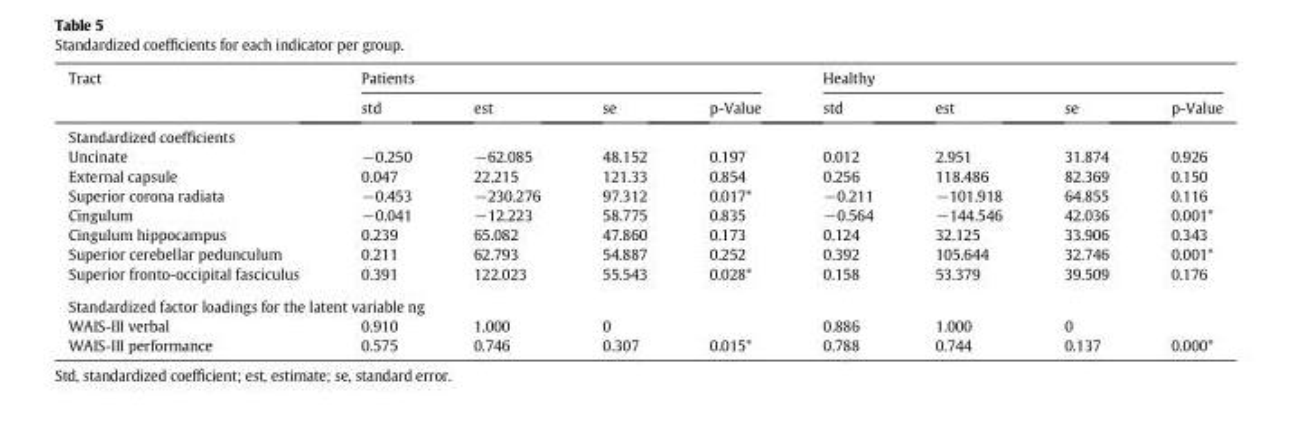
<table><thead><tr><td rowspan="2">Tract</td><td colspan="4">Patients</td><td colspan="4">Healthy</td></tr><tr><td>std</td><td>est</td><td>se</td><td>p-Value</td><td>std</td><td>est</td><td>se</td><td>p-Value</td></tr></thead><tbody><tr><td colspan="9">Standardized coefficients</td></tr><tr><td>Uncinate</td><td>−0.250</td><td>−62.085</td><td>48.152</td><td>0.197</td><td>0.012</td><td>2.951</td><td>31.874</td><td>0.926</td></tr><tr><td>External capsule</td><td>0.047</td><td>22.215</td><td>121.33</td><td>0.854</td><td>0.256</td><td>118.486</td><td>82.369</td><td>0.150</td></tr><tr><td>Superior corona radiata</td><td>−0.453</td><td>−230.276</td><td>97.312</td><td>0.017*</td><td>−0.211</td><td>−101.918</td><td>64.855</td><td>0.116</td></tr><tr><td>Cingulum</td><td>−0.041</td><td>−12.223</td><td>58.775</td><td>0.835</td><td>−0.564</td><td>−144.546</td><td>42.036</td><td>0.001*</td></tr><tr><td>Cingulum hippocampus</td><td>0.239</td><td>65.082</td><td>47.860</td><td>0.173</td><td>0.124</td><td>32.125</td><td>33.906</td><td>0.343</td></tr><tr><td>Superior cerebellar pedunculum</td><td>0.211</td><td>62.793</td><td>54.887</td><td>0.252</td><td>0.392</td><td>105.644</td><td>32.746</td><td>0.001*</td></tr><tr><td>Superior fronto-occipital fasciculus</td><td>0.391</td><td>122.023</td><td>55.543</td><td>0.028*</td><td>0.158</td><td>53.379</td><td>39.509</td><td>0.176</td></tr><tr><td colspan="9">Standardized factor loadings for the latent variable ng</td></tr><tr><td>WAIS-III verbal</td><td>0.910</td><td>1.000</td><td>0</td><td></td><td>0.886</td><td>1.000</td><td>0</td><td></td></tr><tr><td>WAIS-III performance</td><td>0.575</td><td>0.746</td><td>0.307</td><td>0.015*</td><td>0.788</td><td>0.744</td><td>0.137</td><td>0.000*</td></tr></tbody></table>